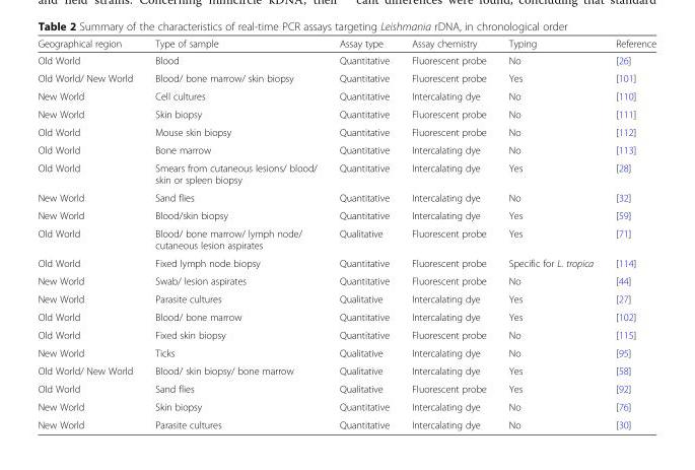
<table><thead><tr><td>Geographical region</td><td>Type of sample</td><td>Assay type</td><td>Assay chemistry</td><td>Typing</td><td>Reference</td></tr></thead><tbody><tr><td>Old World</td><td>Blood</td><td>Quantitative</td><td>Fluorescent probe</td><td>No</td><td>[26]</td></tr><tr><td>Old World/ New World</td><td>Blood/ bone marrow/ skin biopsy</td><td>Quantitative</td><td>Fluorescent probe</td><td>Yes</td><td>[101]</td></tr><tr><td>New World</td><td>Cell cultures</td><td>Quantitative</td><td>Intercalating dye</td><td>No</td><td>[110]</td></tr><tr><td>New World</td><td>Skin biopsy</td><td>Quantitative</td><td>Fluorescent probe</td><td>No</td><td>[111]</td></tr><tr><td>Old World</td><td>Mouse skin biopsy</td><td>Quantitative</td><td>Fluorescent probe</td><td>No</td><td>[112]</td></tr><tr><td>Old World</td><td>Bone marrow</td><td>Quantitative</td><td>Intercalating dye</td><td>No</td><td>[113]</td></tr><tr><td>Old World</td><td>Smears from cutaneous lesions/ blood/ skin or spleen biopsy</td><td>Quantitative</td><td>Intercalating dye</td><td>Yes</td><td>[28]</td></tr><tr><td>New World</td><td>Sand flies</td><td>Quantitative</td><td>Intercalating dye</td><td>No</td><td>[32]</td></tr><tr><td>New World</td><td>Blood/skin biopsy</td><td>Quantitative</td><td>Intercalating dye</td><td>Yes</td><td>[59]</td></tr><tr><td>Old World</td><td>Blood/ bone marrow/ lymph node/ cutaneous lesion aspirates</td><td>Qualitative</td><td>Fluorescent probe</td><td>Yes</td><td>[71]</td></tr><tr><td>Old World</td><td>Fixed lymph node biopsy</td><td>Quantitative</td><td>Fluorescent probe</td><td>Specific for L. tropica</td><td>[114]</td></tr><tr><td>New World</td><td>Swab/ lesion aspirates</td><td>Quantitative</td><td>Fluorescent probe</td><td>No</td><td>[44]</td></tr><tr><td>New World</td><td>Parasite cultures</td><td>Qualitative</td><td>Intercalating dye</td><td>Yes</td><td>[27]</td></tr><tr><td>Old World</td><td>Blood/ bone marrow</td><td>Quantitative</td><td>Intercalating dye</td><td>Yes</td><td>[102]</td></tr><tr><td>Old World</td><td>Fixed skin biopsy</td><td>Quantitative</td><td>Fluorescent probe</td><td>No</td><td>[115]</td></tr><tr><td>New World</td><td>Ticks</td><td>Qualitative</td><td>Intercalating dye</td><td>No</td><td>[95]</td></tr><tr><td>Old World/ New World</td><td>Blood/ skin biopsy/ bone marrow</td><td>Qualitative</td><td>Intercalating dye</td><td>Yes</td><td>[58]</td></tr><tr><td>Old World</td><td>Sand flies</td><td>Qualitative</td><td>Fluorescent probe</td><td>Yes</td><td>[92]</td></tr><tr><td>New World</td><td>Skin biopsy</td><td>Quantitative</td><td>Intercalating dye</td><td>No</td><td>[76]</td></tr><tr><td>New World</td><td>Parasite cultures</td><td>Quantitative</td><td>Intercalating dye</td><td>No</td><td>[30]</td></tr></tbody></table>